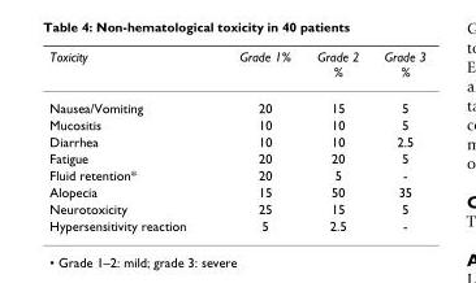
<table><thead><tr><td>Toxicity</td><td>Grade 1%</td><td>Grade 2 %</td><td>Grade 3 %</td></tr></thead><tbody><tr><td>Nausea/Vomiting</td><td>20</td><td>15</td><td>5</td></tr><tr><td>Mucositis</td><td>10</td><td>10</td><td>5</td></tr><tr><td>Diarrhea</td><td>10</td><td>10</td><td>2.5</td></tr><tr><td>Fatigue</td><td>20</td><td>20</td><td>5</td></tr><tr><td>Fluid retention*</td><td>20</td><td>5</td><td>-</td></tr><tr><td>Alopecia</td><td>15</td><td>50</td><td>35</td></tr><tr><td>Neurotoxicity</td><td>25</td><td>15</td><td>5</td></tr><tr><td>Hypersensitivity reaction</td><td>5</td><td>2.5</td><td>-</td></tr></tbody></table>